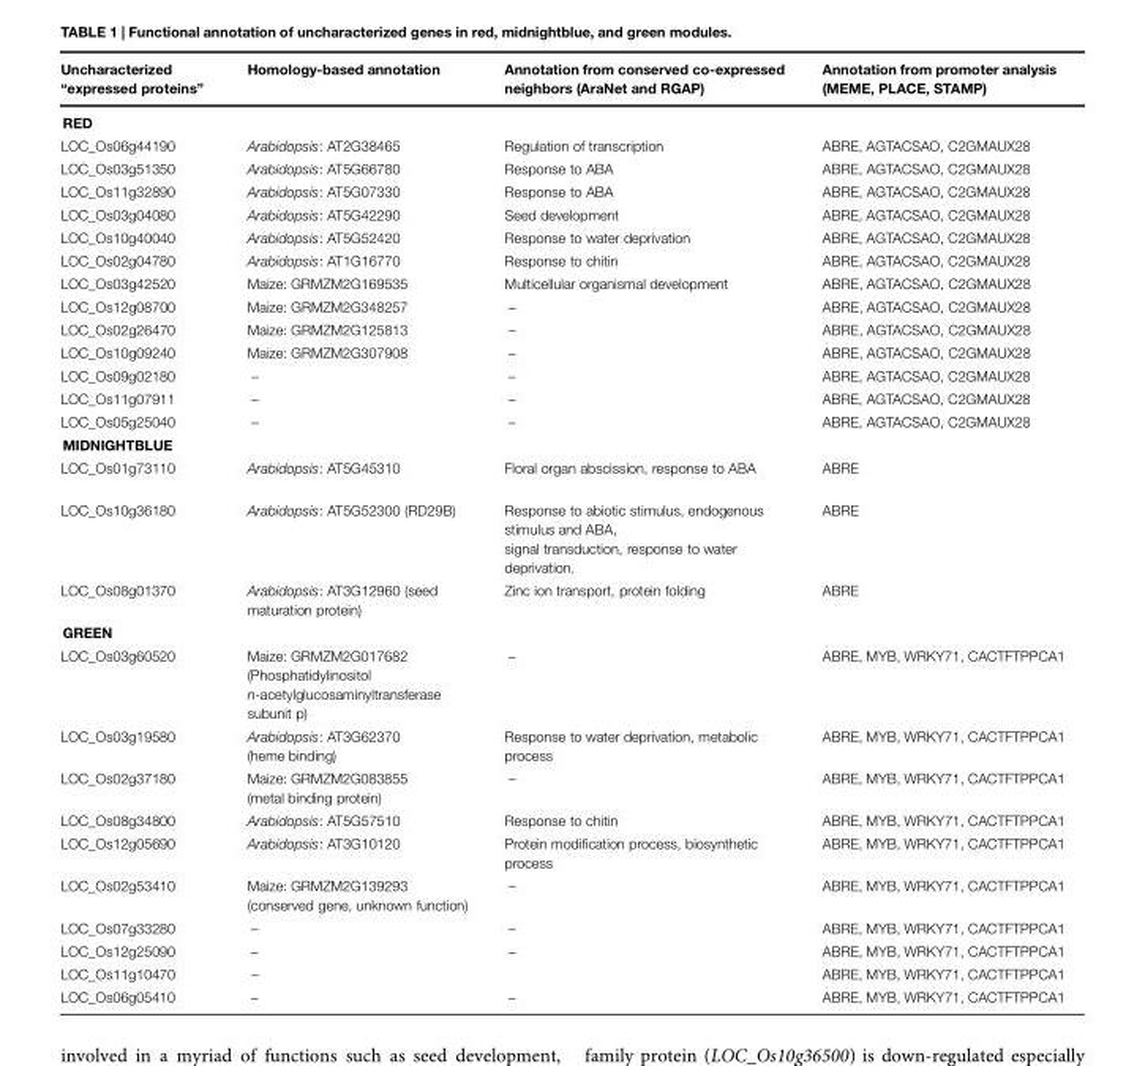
<table><thead><tr><td>Uncharacterized “expressed proteins”</td><td>Homology-based annotation</td><td>Annotation from conserved co-expressed neighbors (AraNet and RGAP)</td><td>Annotation from promoter analysis (MEME, PLACE, STAMP)</td></tr></thead><tbody><tr><td colspan="4">RED</td></tr><tr><td>LOC_Os06g44190</td><td>Arabidopsis: AT2G38465</td><td>Regulation of transcription</td><td>ABRE, AGTACSAO, C2GMAUX28</td></tr><tr><td>LOC_Os03g51350</td><td>Arabidopsis: AT5G66780</td><td>Response to ABA</td><td>ABRE, AGTACSAO, C2GMAUX28</td></tr><tr><td>LOC_Os11g32890</td><td>Arabidopsis: AT5G07330</td><td>Response to ABA</td><td>ABRE, AGTACSAO, C2GMAUX28</td></tr><tr><td>LOC_Os03g04080</td><td>Arabidopsis: AT5G42290</td><td>Seed development</td><td>ABRE, AGTACSAO, C2GMAUX28</td></tr><tr><td>LOC_Os10g40040</td><td>Arabidopsis: AT5G52420</td><td>Response to water deprivation</td><td>ABRE, AGTACSAO, C2GMAUX28</td></tr><tr><td>LOC_Os02g04780</td><td>Arabidopsis: AT1G16770</td><td>Response to chitin</td><td>ABRE, AGTACSAO, C2GMAUX28</td></tr><tr><td>LOC_Os03g42520</td><td>Maize: GRMZM2G169535</td><td>Multicellular organismal development</td><td>ABRE, AGTACSAO, C2GMAUX28</td></tr><tr><td>LOC_Os12g08700</td><td>Maize: GRMZM2G348257</td><td>–</td><td>ABRE, AGTACSAO, C2GMAUX28</td></tr><tr><td>LOC_Os02g26470</td><td>Maize: GRMZM2G125813</td><td>–</td><td>ABRE, AGTACSAO, C2GMAUX28</td></tr><tr><td>LOC_Os10g09240</td><td>Maize: GRMZM2G307908</td><td>–</td><td>ABRE, AGTACSAO, C2GMAUX28</td></tr><tr><td>LOC_Os09g02180</td><td>–</td><td>–</td><td>ABRE, AGTACSAO, C2GMAUX28</td></tr><tr><td>LOC_Os11g07911</td><td>–</td><td>–</td><td>ABRE, AGTACSAO, C2GMAUX28</td></tr><tr><td>LOC_Os05g25040</td><td>–</td><td>–</td><td>ABRE, AGTACSAO, C2GMAUX28</td></tr><tr><td colspan="4">MIDNIGHTBLUE</td></tr><tr><td>LOC_Os01g73110</td><td>Arabidopsis: AT5G45310</td><td>Floral organ abscission, response to ABA</td><td>ABRE</td></tr><tr><td>LOC_Os10g36180</td><td>Arabidopsis: AT5G52300 (RD29B)</td><td>Response to abiotic stimulus, endogenous stimulus and ABA, signal transduction, response to water deprivation.</td><td>ABRE</td></tr><tr><td>LOC_Os08g01370</td><td>Arabidopsis: AT3G12960 (seed maturation protein)</td><td>Zinc ion transport, protein folding</td><td>ABRE</td></tr><tr><td colspan="4">GREEN</td></tr><tr><td>LOC_Os03g60520</td><td>Maize: GRMZM2G017682 (Phosphatidylinositol n-acetylglucosaminyltransferase subunit p)</td><td>–</td><td>ABRE, MYB, WRKY71, CACTFTPPCA1</td></tr><tr><td>LOC_Os03g19580</td><td>Arabidopsis: AT3G62370 (heme binding)</td><td>Response to water deprivation, metabolic process</td><td>ABRE, MYB, WRKY71, CACTFTPPCA1</td></tr><tr><td>LOC_Os02g37180</td><td>Maize: GRMZM2G083855 (metal binding protein)</td><td>–</td><td>ABRE, MYB, WRKY71, CACTFTPPCA1</td></tr><tr><td>LOC_Os08g34800</td><td>Arabidopsis: AT5G57510</td><td>Response to chitin</td><td>ABRE, MYB, WRKY71, CACTFTPPCA1</td></tr><tr><td>LOC_Os12g05690</td><td>Arabidopsis: AT3G10120</td><td>Protein modification process, biosynthetic process</td><td>ABRE, MYB, WRKY71, CACTFTPPCA1</td></tr><tr><td>LOC_Os02g53410</td><td>Maize: GRMZM2G139293 (conserved gene, unknown function)</td><td>–</td><td>ABRE, MYB, WRKY71, CACTFTPPCA1</td></tr><tr><td>LOC_Os07g33280</td><td>–</td><td>–</td><td>ABRE, MYB, WRKY71, CACTFTPPCA1</td></tr><tr><td>LOC_Os12g25090</td><td>–</td><td>–</td><td>ABRE, MYB, WRKY71, CACTFTPPCA1</td></tr><tr><td>LOC_Os11g10470</td><td>–</td><td></td><td>ABRE, MYB, WRKY71, CACTFTPPCA1</td></tr><tr><td>LOC_Os06g05410</td><td>–</td><td>–</td><td>ABRE, MYB, WRKY71, CACTFTPPCA1</td></tr></tbody></table>